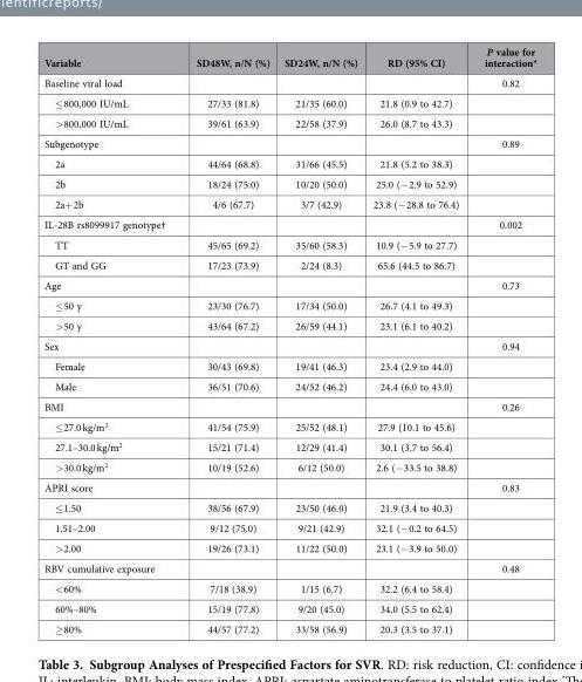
<table><thead><tr><td>Variable</td><td>SD48W, n/N (%)</td><td>SD24W, n/N (%)</td><td>RD (95% CI)</td><td>P value for interaction*</td></tr></thead><tbody><tr><td>Baseline viral load</td><td></td><td></td><td></td><td>0.82</td></tr><tr><td>≤ 800,000 IU/mL</td><td>27/33 (81.8)</td><td>21/35 (60.0)</td><td>21.8 (0.9 to 42.7)</td><td></td></tr><tr><td>&gt; 800,000 IU/mL</td><td>39/61 (63.9)</td><td>22/58 (37.9)</td><td>26.0 (8.7 to 43.3)</td><td></td></tr><tr><td>Subgenotype</td><td></td><td></td><td></td><td>0.89</td></tr><tr><td>2a</td><td>44/64 (68.8)</td><td>31/66 (45.5)</td><td>21.8 (5.2 to 38.3)</td><td></td></tr><tr><td>2b</td><td>18/24 (75.0)</td><td>10/20 (50.0)</td><td>25.0 (− 2.9 to 52.9)</td><td></td></tr><tr><td>2a+ 2b</td><td>4/6 (67.7)</td><td>3/7 (42.9)</td><td>23.8 (− 28.8 to 76.4)</td><td></td></tr><tr><td>IL-28B rs8099917 genotype†</td><td></td><td></td><td></td><td>0.002</td></tr><tr><td>TT</td><td>45/65 (69.2)</td><td>35/60 (58.3)</td><td>10.9 (− 5.9 to 27.7)</td><td></td></tr><tr><td>GT and GG</td><td>17/23 (73.9)</td><td>2/24 (8.3)</td><td>65.6 (44.5 to 86.7)</td><td></td></tr><tr><td>Age</td><td></td><td></td><td></td><td>0.73</td></tr><tr><td>≤ 50 y</td><td>23/30 (76.7)</td><td>17/34 (50.0)</td><td>26.7 (4.1 to 49.3)</td><td></td></tr><tr><td>&gt; 50 y</td><td>43/64 (67.2)</td><td>26/59 (44.1)</td><td>23.1 (6.1 to 40.2)</td><td></td></tr><tr><td>Sex</td><td></td><td></td><td></td><td>0.94</td></tr><tr><td>Female</td><td>30/43 (69.8)</td><td>19/41 (46.3)</td><td>23.4 (2.9 to 44.0)</td><td></td></tr><tr><td>Male</td><td>36/51 (70.6)</td><td>24/52 (46.2)</td><td>24.4 (6.0 to 43.0)</td><td></td></tr><tr><td>BMI</td><td></td><td></td><td></td><td>0.26</td></tr><tr><td>≤ 27.0 kg/m<sup>2</sup></td><td>41/54 (75.9)</td><td>25/52 (48.1)</td><td>27.9 (10.1 to 45.6)</td><td></td></tr><tr><td>27.1–30.0 kg/m<sup>2</sup></td><td>15/21 (71.4)</td><td>12/29 (41.4)</td><td>30.1 (3.7 to 56.4)</td><td></td></tr><tr><td>&gt; 30.0 kg/m<sup>2</sup></td><td>10/19 (52.6)</td><td>6/12 (50.0)</td><td>2.6 (− 33.5 to 38.8)</td><td></td></tr><tr><td>APRI score</td><td></td><td></td><td></td><td>0.83</td></tr><tr><td>≤ 1.50</td><td>38/56 (67.9)</td><td>23/50 (46.0)</td><td>21.9 (3.4 to 40.3)</td><td></td></tr><tr><td>1.51–2.00</td><td>9/12 (75.0)</td><td>9/21 (42.9)</td><td>32.1 (− 0.2 to 64.5)</td><td></td></tr><tr><td>&gt; 2.00</td><td>19/26 (73.1)</td><td>11/22 (50.0)</td><td>23.1 (− 3.9 to 50.0)</td><td></td></tr><tr><td>RBV cumulative exposure</td><td></td><td></td><td></td><td>0.48</td></tr><tr><td>&lt; 60%</td><td>7/18 (38.9)</td><td>1/15 (6.7)</td><td>32.2 (6.4 to 58.4)</td><td></td></tr><tr><td>60%–80%</td><td>15/19 (77.8)</td><td>9/20 (45.0)</td><td>34.0 (5.5 to 62.4)</td><td></td></tr><tr><td>≥ 80%</td><td>44/57 (77.2)</td><td>33/58 (56.9)</td><td>20.3 (3.5 to 37.1)</td><td></td></tr></tbody></table>